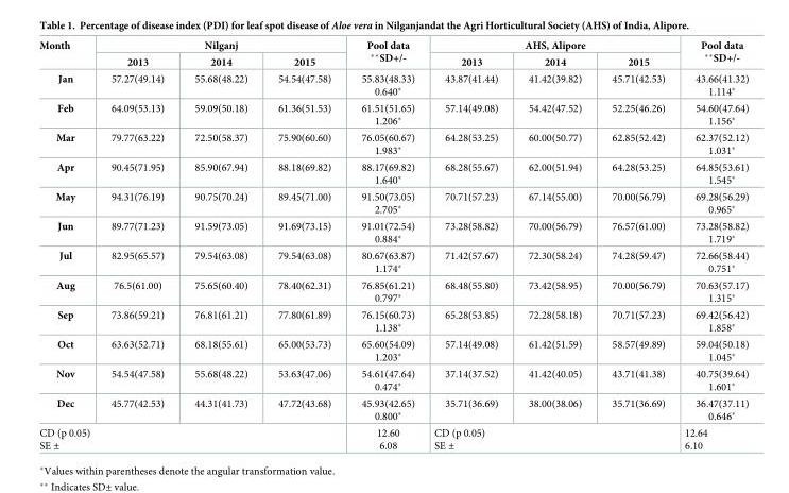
<table><thead><tr><td rowspan="2">Month</td><td colspan="3">Nilganj</td><td rowspan="2">Pool data **SD+/-</td><td colspan="3">AHS, Alipore</td><td rowspan="2">Pool data **SD+/-</td></tr><tr><td>2013</td><td>2014</td><td>2015</td><td>2013</td><td>2014</td><td>2015</td></tr></thead><tbody><tr><td>Jan</td><td>57.27(49.14)</td><td>55.68(48.22)</td><td>54.54(47.58)</td><td>55.83(48.33) 0.640*</td><td>43.87(41.44)</td><td>41.42(39.82)</td><td>45.71(42.53)</td><td>43.66(41.32) 1.114*</td></tr><tr><td>Feb</td><td>64.09(53.13)</td><td>59.09(50.18)</td><td>61.36(51.53)</td><td>61.51(51.65) 1.206*</td><td>57.14(49.08)</td><td>54.42(47.52)</td><td>52.25(46.26)</td><td>54.60(47.64) 1.156*</td></tr><tr><td>Mar</td><td>79.77(63.22)</td><td>72.50(58.37)</td><td>75.90(60.60)</td><td>76.05(60.67) 1.983*</td><td>64.28(53.25)</td><td>60.00(50.77)</td><td>62.85(52.42)</td><td>62.37(52.12) 1.031*</td></tr><tr><td>Apr</td><td>90.45(71.95)</td><td>85.90(67.94)</td><td>88.18(69.82)</td><td>88.17(69.82) 1.640*</td><td>68.28(55.67)</td><td>62.00(51.94)</td><td>64.28(53.25)</td><td>64.85(53.61) 1.545*</td></tr><tr><td>May</td><td>94.31(76.19)</td><td>90.75(70.24)</td><td>89.45(71.00)</td><td>91.50(73.05) 2.705*</td><td>70.71(57.23)</td><td>67.14(55.00)</td><td>70.00(56.79)</td><td>69.28(56.29) 0.965*</td></tr><tr><td>Jun</td><td>89.77(71.23)</td><td>91.59(73.05)</td><td>91.69(73.15)</td><td>91.01(72.54) 0.884*</td><td>73.28(58.82)</td><td>70.00(56.79)</td><td>76.57(61.00)</td><td>73.28(58.82) 1.719*</td></tr><tr><td>Jul</td><td>82.95(65.57)</td><td>79.54(63.08)</td><td>79.54(63.08)</td><td>80.67(63.87) 1.174*</td><td>71.42(57.67)</td><td>72.30(58.24)</td><td>74.28(59.47)</td><td>72.66(58.44) 0.751*</td></tr><tr><td>Aug</td><td>76.5(61.00)</td><td>75.65(60.40)</td><td>78.40(62.31)</td><td>76.85(61.21) 0.797*</td><td>68.48(55.80)</td><td>73.42(58.95)</td><td>70.00(56.79)</td><td>70.63(57.17) 1.315*</td></tr><tr><td>Sep</td><td>73.86(59.21)</td><td>76.81(61.21)</td><td>77.80(61.89)</td><td>76.15(60.73) 1.138*</td><td>65.28(53.85)</td><td>72.28(58.18)</td><td>70.71(57.23)</td><td>69.42(56.42) 1.858*</td></tr><tr><td>Oct</td><td>63.63(52.71)</td><td>68.18(55.61)</td><td>65.00(53.73)</td><td>65.60(54.09) 1.203*</td><td>57.14(49.08)</td><td>61.42(51.59)</td><td>58.57(49.89)</td><td>59.04(50.18) 1.045*</td></tr><tr><td>Nov</td><td>54.54(47.58)</td><td>55.68(48.22)</td><td>53.63(47.06)</td><td>54.61(47.64) 0.474*</td><td>37.14(37.52)</td><td>41.42(40.05)</td><td>43.71(41.38)</td><td>40.75(39.64) 1.601*</td></tr><tr><td>Dec</td><td>45.77(42.53)</td><td>44.31(41.73)</td><td>47.72(43.68)</td><td>45.93(42.65) 0.800*</td><td>35.71(36.69)</td><td>38.00(38.06)</td><td>35.71(36.69)</td><td>36.47(37.11) 0.646*</td></tr><tr><td colspan="4">CD (p 0.05) SE ±</td><td>12.60 6.08</td><td colspan="3">CD (p 0.05) SE ±</td><td>12.64 6.10</td></tr></tbody></table>